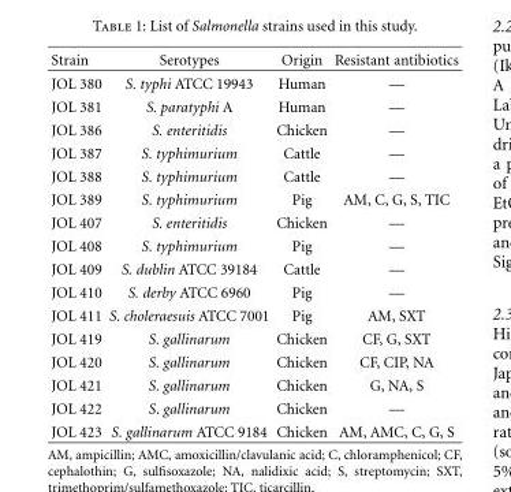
<table><thead><tr><td>Strain</td><td>Serotypes</td><td>Origin</td><td>Resistant antibiotics</td></tr></thead><tbody><tr><td>JOL 380</td><td>S. typhi ATCC 19943</td><td>Human</td><td>—</td></tr><tr><td>JOL 381</td><td>S. paratyphi A</td><td>Human</td><td>—</td></tr><tr><td>JOL 386</td><td>S. enteritidis</td><td>Chicken</td><td>—</td></tr><tr><td>JOL 387</td><td>S. typhimurium</td><td>Cattle</td><td>—</td></tr><tr><td>JOL 388</td><td>S. typhimurium</td><td>Cattle</td><td>—</td></tr><tr><td>JOL 389</td><td>S. typhimurium</td><td>Pig</td><td>AM, C, G, S, TIC</td></tr><tr><td>JOL 407</td><td>S. enteritidis</td><td>Chicken</td><td>—</td></tr><tr><td>JOL 408</td><td>S. typhimurium</td><td>Pig</td><td>—</td></tr><tr><td>JOL 409</td><td>S. dublin ATCC 39184</td><td>Cattle</td><td>—</td></tr><tr><td>JOL 410</td><td>S. derby ATCC 6960</td><td>Pig</td><td>—</td></tr><tr><td>JOL 411</td><td>S. choleraesuis ATCC 7001</td><td>Pig</td><td>AM, SXT</td></tr><tr><td>JOL 419</td><td>S. gallinarum</td><td>Chicken</td><td>CF, G, SXT</td></tr><tr><td>JOL 420</td><td>S. gallinarum</td><td>Chicken</td><td>CF, CIP, NA</td></tr><tr><td>JOL 421</td><td>S. gallinarum</td><td>Chicken</td><td>G, NA, S</td></tr><tr><td>JOL 422</td><td>S. gallinarum</td><td>Chicken</td><td>—</td></tr><tr><td>JOL 423</td><td>S. gallinarum ATCC 9184</td><td>Chicken</td><td>AM, AMC, C, G, S</td></tr></tbody></table>